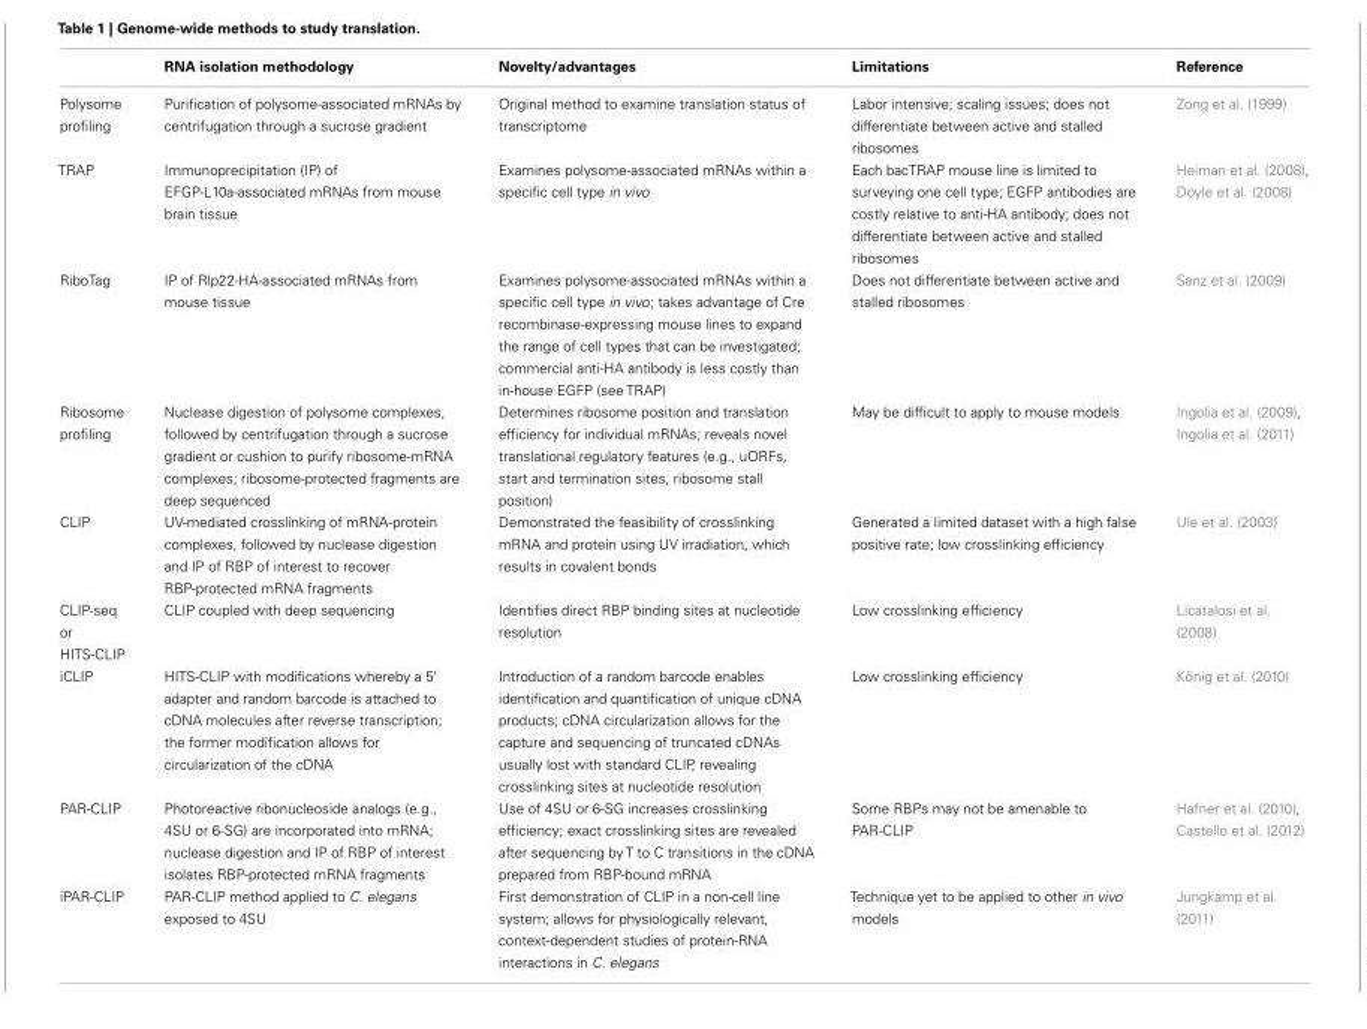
<table><thead><tr><td></td><td>RNA isolation methodology</td><td>Novelty/advantages</td><td>Limitations</td><td>Reference</td></tr></thead><tbody><tr><td>Polysome profiling</td><td>Purification of polysome-associated mRNAs by centrifugation through a sucrose gradient</td><td>Original method to examine translation status of transcriptome</td><td>Labor intensive; scaling issues; does not differentiate between active and stalled ribosomes</td><td>Zong et al. (1999)</td></tr><tr><td>TRAP</td><td>Immunoprecipitation (IP) of EFGP-L10a-associated mRNAs from mouse brain tissue</td><td>Examines polysome-associated mRNAs within a specific cell type in vivo</td><td>Each bacTRAP mouse line is limited to surveying one cell type; EGFP antibodies are costly relative to anti-HA antibody; does not differentiate between active and stalled ribosomes</td><td>Heiman et al. (2008), Doyle et al. (2008)</td></tr><tr><td>RiboTag</td><td>IP of Rlp22-HA-associated mRNAs from mouse tissue</td><td>Examines polysome-associated mRNAs within a specific cell type in vivo; takes advantage of Cre recombinase-expressing mouse lines to expand the range of cell types that can be investigated; commercial anti-HA antibody is less costly than in-house EGFP (see TRAP)</td><td>Does not differentiate between active and stalled ribosomes</td><td>Sanz et al. (2009)</td></tr><tr><td>Ribosome profiling</td><td>Nuclease digestion of polysome complexes, followed by centrifugation through a sucrose gradient or cushion to purify ribosome-mRNA complexes; ribosome-protected fragments are deep sequenced</td><td>Determines ribosome position and translation efficiency for individual mRNAs; reveals novel translational regulatory features (e.g., uORFs, start and termination sites, ribosome stall position)</td><td>May be difficult to apply to mouse models</td><td>Ingolia et al. (2009), Ingolia et al. (2011)</td></tr><tr><td>CLIP</td><td>UV-mediated crosslinking of mRNA-protein complexes, followed by nuclease digestion and IP of RBP of interest to recover RBP-protected mRNA fragments</td><td>Demonstrated the feasibility of crosslinking mRNA and protein using UV irradiation, which results in covalent bonds</td><td>Generated a limited dataset with a high false positive rate; low crosslinking efficiency</td><td>Ule et al. (2003)</td></tr><tr><td>CLIP-seq or HITS-CLIP</td><td>CLIP coupled with deep sequencing</td><td>Identifies direct RBP binding sites at nucleotide resolution</td><td>Low crosslinking efficiency</td><td>Licatalosi et al. (2008)</td></tr><tr><td>iCLIP</td><td>HITS-CLIP with modifications whereby a 5′ adapter and random barcode is attached to cDNA molecules after reverse transcription; the former modification allows for circularization of the cDNA</td><td>Introduction of a random barcode enables identification and quantification of unique cDNA products; cDNA circularization allows for the capture and sequencing of truncated cDNAs usually lost with standard CLIP, revealing crosslinking sites at nucleotide resolution</td><td>Low crosslinking efficiency</td><td>König et al. (2010)</td></tr><tr><td>PAR-CLIP</td><td>Photoreactive ribonucleoside analogs (e.g., 4SU or 6-SG) are incorporated into mRNA; nuclease digestion and IP of RBP of interest isolates RBP-protected mRNA fragments</td><td>Use of 4SU or 6-SG increases crosslinking efficiency; exact crosslinking sites are revealed after sequencing byT to C transitions in the cDNA prepared from RBP-bound mRNA</td><td>Some RBPs may not be amenable to PAR-CLIP</td><td>Hafner et al. (2010), Castello et al. (2012)</td></tr><tr><td>iPAR-CLIP</td><td>PAR-CLIP method applied to C. elegans exposed to 4SU</td><td>First demonstration of CLIP in a non-cell line system; allows for physiologically relevant, context-dependent studies of protein-RNA interactions in C. elegans</td><td>Technique yet to be applied to other in vivo models</td><td>Jungkamp et al. (2011)</td></tr></tbody></table>